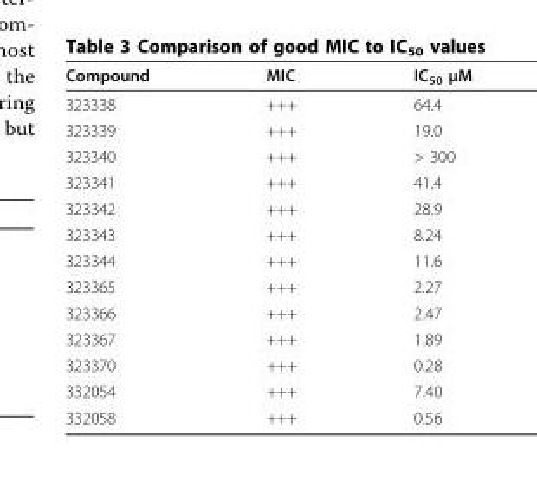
<table><thead><tr><td>Compound</td><td>MIC</td><td>IC<sub>50</sub> μM</td></tr></thead><tbody><tr><td>323338</td><td>+++</td><td>64.4</td></tr><tr><td>323339</td><td>+++</td><td>19.0</td></tr><tr><td>323340</td><td>+++</td><td>&gt; 300</td></tr><tr><td>323341</td><td>+++</td><td>41.4</td></tr><tr><td>323342</td><td>+++</td><td>28.9</td></tr><tr><td>323343</td><td>+++</td><td>8.24</td></tr><tr><td>323344</td><td>+++</td><td>11.6</td></tr><tr><td>323365</td><td>+++</td><td>2.27</td></tr><tr><td>323366</td><td>+++</td><td>2.47</td></tr><tr><td>323367</td><td>+++</td><td>1.89</td></tr><tr><td>323370</td><td>+++</td><td>0.28</td></tr><tr><td>332054</td><td>+++</td><td>7.40</td></tr><tr><td>332058</td><td>+++</td><td>0.56</td></tr></tbody></table>